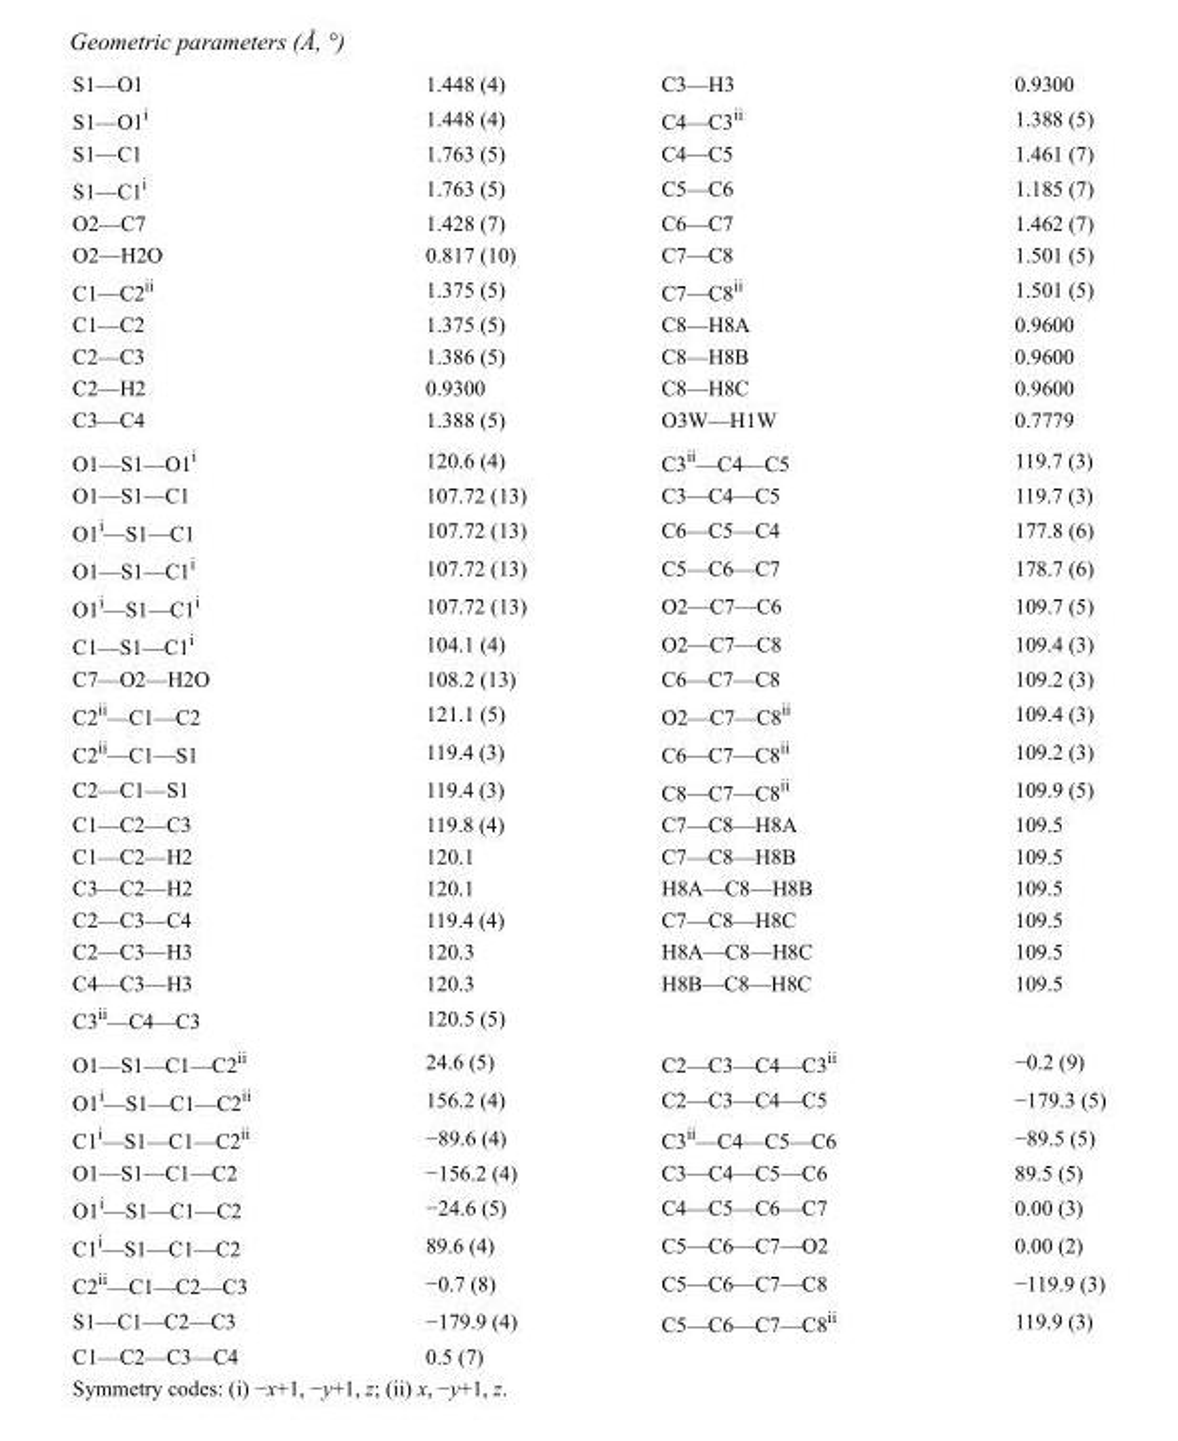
<table><tbody><tr><td>S1—O1</td><td>1.448 (4)</td><td>C3—H3</td><td>0.9300</td></tr><tr><td>S1—O1<sup>i</sup></td><td>1.448 (4)</td><td>C4—C3<sup>ii</sup></td><td>1.388 (5)</td></tr><tr><td>S1—C1</td><td>1.763 (5)</td><td>C4—C5</td><td>1.461 (7)</td></tr><tr><td>S1—C1<sup>i</sup></td><td>1.763 (5)</td><td>C5—C6</td><td>1.185 (7)</td></tr><tr><td>O2—C7</td><td>1.428 (7)</td><td>C6—C7</td><td>1.462 (7)</td></tr><tr><td>O2—H2O</td><td>0.817 (10)</td><td>C7—C8</td><td>1.501 (5)</td></tr><tr><td>C1—C2<sup>ii</sup></td><td>1.375 (5)</td><td>C7—C8<sup>ii</sup></td><td>1.501 (5)</td></tr><tr><td>C1—C2</td><td>1.375 (5)</td><td>C8—H8A</td><td>0.9600</td></tr><tr><td>C2—C3</td><td>1.386 (5)</td><td>C8—H8B</td><td>0.9600</td></tr><tr><td>C2—H2</td><td>0.9300</td><td>C8—H8C</td><td>0.9600</td></tr><tr><td>C3—C4</td><td>1.388 (5)</td><td>O3W—H1W</td><td>0.7779</td></tr><tr><td>O1—S1—O1<sup>i</sup></td><td>120.6 (4)</td><td>C3<sup>ii</sup>—C4—C5</td><td>119.7 (3)</td></tr><tr><td>O1—S1—C1</td><td>107.72 (13)</td><td>C3—C4—C5</td><td>119.7 (3)</td></tr><tr><td>O1<sup>i</sup>—S1—C1</td><td>107.72 (13)</td><td>C6—C5—C4</td><td>177.8 (6)</td></tr><tr><td>O1—S1—C1<sup>i</sup></td><td>107.72 (13)</td><td>C5—C6—C7</td><td>178.7 (6)</td></tr><tr><td>O1<sup>i</sup>—S1—C1<sup>i</sup></td><td>107.72 (13)</td><td>O2—C7—C6</td><td>109.7 (5)</td></tr><tr><td>C1—S1—C1<sup>i</sup></td><td>104.1 (4)</td><td>O2—C7—C8</td><td>109.4 (3)</td></tr><tr><td>C7—O2—H2O</td><td>108.2 (13)</td><td>C6—C7—C8</td><td>109.2 (3)</td></tr><tr><td>C2<sup>ii</sup>—C1—C2</td><td>121.1 (5)</td><td>O2—C7—C8<sup>ii</sup></td><td>109.4 (3)</td></tr><tr><td>C2<sup>ii</sup>—C1—S1</td><td>119.4 (3)</td><td>C6—C7—C8<sup>ii</sup></td><td>109.2 (3)</td></tr><tr><td>C2—C1—S1</td><td>119.4 (3)</td><td>C8—C7—C8<sup>ii</sup></td><td>109.9 (5)</td></tr><tr><td>C1—C2—C3</td><td>119.8 (4)</td><td>C7—C8—H8A</td><td>109.5</td></tr><tr><td>C1—C2—H2</td><td>120.1</td><td>C7—C8—H8B</td><td>109.5</td></tr><tr><td>C3—C2—H2</td><td>120.1</td><td>H8A—C8—H8B</td><td>109.5</td></tr><tr><td>C2—C3—C4</td><td>119.4 (4)</td><td>C7—C8—H8C</td><td>109.5</td></tr><tr><td>C2—C3—H3</td><td>120.3</td><td>H8A—C8—H8C</td><td>109.5</td></tr><tr><td>C4—C3—H3</td><td>120.3</td><td>H8B—C8—H8C</td><td>109.5</td></tr><tr><td>C3<sup>ii</sup>—C4—C3</td><td>120.5 (5)</td><td></td><td></td></tr><tr><td>O1—S1—C1—C2<sup>ii</sup></td><td>24.6 (5)</td><td>C2—C3—C4—C3<sup>ii</sup></td><td>−0.2 (9)</td></tr><tr><td>O1<sup>i</sup>—S1—C1—C2<sup>ii</sup></td><td>156.2 (4)</td><td>C2—C3—C4—C5</td><td>−179.3 (5)</td></tr><tr><td>C1<sup>i</sup>—S1—C1—C2<sup>ii</sup></td><td>−89.6 (4)</td><td>C3<sup>ii</sup>—C4—C5—C6</td><td>−89.5 (5)</td></tr><tr><td>O1—S1—C1—C2</td><td>−156.2 (4)</td><td>C3—C4—C5—C6</td><td>89.5 (5)</td></tr><tr><td>O1<sup>i</sup>—S1—C1—C2</td><td>−24.6 (5)</td><td>C4—C5—C6—C7</td><td>0.00 (3)</td></tr><tr><td>C1<sup>i</sup>—S1—C1—C2</td><td>89.6 (4)</td><td>C5—C6—C7—O2</td><td>0.00 (2)</td></tr><tr><td>C2<sup>ii</sup>—C1—C2—C3</td><td>−0.7 (8)</td><td>C5—C6—C7—C8</td><td>−119.9 (3)</td></tr><tr><td>S1—C1—C2—C3</td><td>−179.9 (4)</td><td>C5—C6—C7—C8<sup>ii</sup></td><td>119.9 (3)</td></tr><tr><td>C1—C2—C3—C4</td><td>0.5 (7)</td><td></td><td></td></tr></tbody></table>